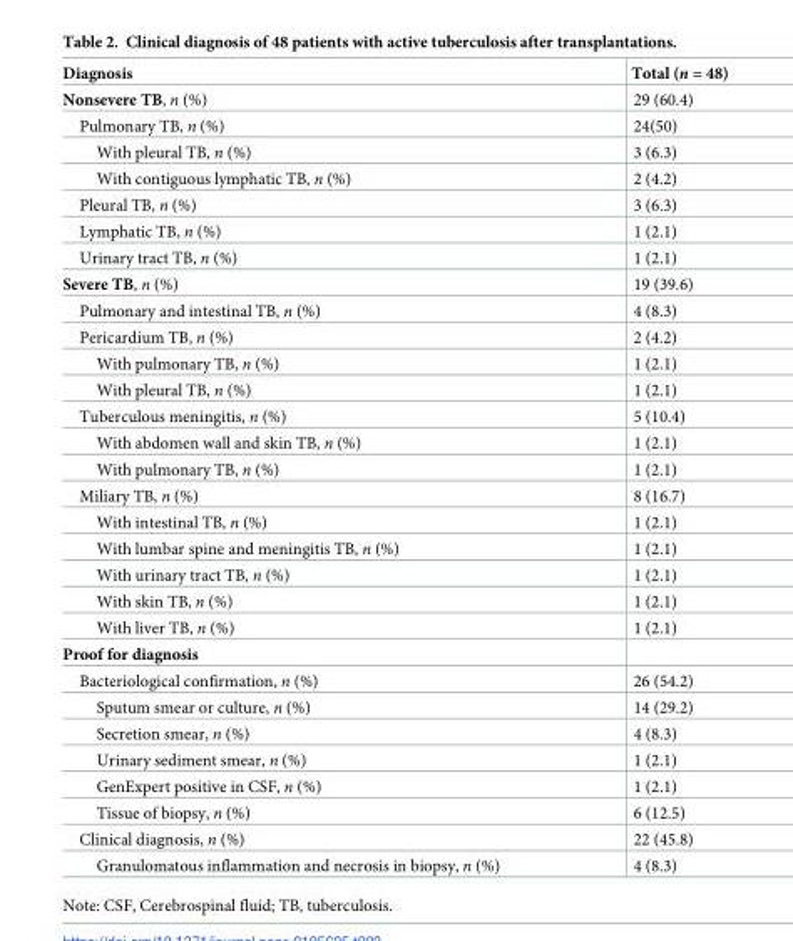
<table><thead><tr><td>Diagnosis</td><td>Total (n = 48)</td></tr></thead><tbody><tr><td>Nonsevere TB, n (%)</td><td>29 (60.4)</td></tr><tr><td>Pulmonary TB, n (%)</td><td>24(50)</td></tr><tr><td>With pleural TB, n (%)</td><td>3 (6.3)</td></tr><tr><td>With contiguous lymphatic TB, n (%)</td><td>2 (4.2)</td></tr><tr><td>Pleural TB, n (%)</td><td>3 (6.3)</td></tr><tr><td>Lymphatic TB, n (%)</td><td>1 (2.1)</td></tr><tr><td>Urinary tract TB, n (%)</td><td>1 (2.1)</td></tr><tr><td>Severe TB, n (%)</td><td>19 (39.6)</td></tr><tr><td>Pulmonary and intestinal TB, n (%)</td><td>4 (8.3)</td></tr><tr><td>Pericardium TB, n (%)</td><td>2 (4.2)</td></tr><tr><td>With pulmonary TB, n (%)</td><td>1 (2.1)</td></tr><tr><td>With pleural TB, n (%)</td><td>1 (2.1)</td></tr><tr><td>Tuberculous meningitis, n (%)</td><td>5 (10.4)</td></tr><tr><td>With abdomen wall and skin TB, n (%)</td><td>1 (2.1)</td></tr><tr><td>With pulmonary TB, n (%)</td><td>1 (2.1)</td></tr><tr><td>Miliary TB, n (%)</td><td>8 (16.7)</td></tr><tr><td>With intestinal TB, n (%)</td><td>1 (2.1)</td></tr><tr><td>With lumbar spine and meningitis TB, n (%)</td><td>1 (2.1)</td></tr><tr><td>With urinary tract TB, n (%)</td><td>1 (2.1)</td></tr><tr><td>With skin TB, n (%)</td><td>1 (2.1)</td></tr><tr><td>With liver TB, n (%)</td><td>1 (2.1)</td></tr><tr><td colspan="2">Proof for diagnosis</td></tr><tr><td>Bacteriological confirmation, n (%)</td><td>26 (54.2)</td></tr><tr><td>Sputum smear or culture, n (%)</td><td>14 (29.2)</td></tr><tr><td>Secretion smear, n (%)</td><td>4 (8.3)</td></tr><tr><td>Urinary sediment smear, n (%)</td><td>1 (2.1)</td></tr><tr><td>GenExpert positive in CSF, n (%)</td><td>1 (2.1)</td></tr><tr><td>Tissue of biopsy, n (%)</td><td>6 (12.5)</td></tr><tr><td>Clinical diagnosis, n (%)</td><td>22 (45.8)</td></tr><tr><td>Granulomatous inflammation and necrosis in biopsy, n (%)</td><td>4 (8.3)</td></tr></tbody></table>